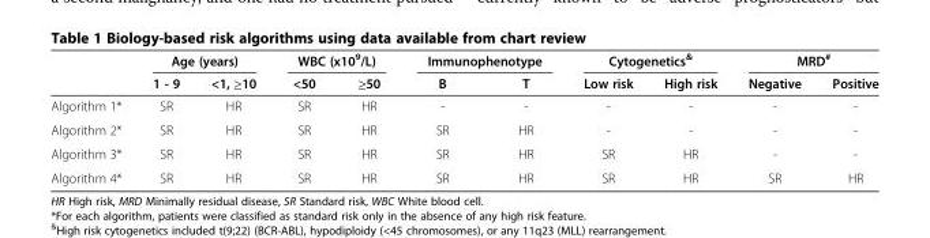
<table><thead><tr><td rowspan="2"></td><td colspan="2">Age (years)</td><td colspan="2">WBC (x10<sup>9</sup>/L)</td><td colspan="2">Immunophenotype</td><td colspan="2">Cytogenetics<sup>&amp;</sup></td><td colspan="2">MRD<sup>#</sup></td></tr><tr><td>1 - 9</td><td>&lt;1, ≥10</td><td>&lt;50</td><td>≥50</td><td>B</td><td>T</td><td>Low risk</td><td>High risk</td><td>Negative</td><td>Positive</td></tr></thead><tbody><tr><td>Algorithm 1*</td><td>SR</td><td>HR</td><td>SR</td><td>HR</td><td>-</td><td>-</td><td>-</td><td>-</td><td>-</td><td>-</td></tr><tr><td>Algorithm 2*</td><td>SR</td><td>HR</td><td>SR</td><td>HR</td><td>SR</td><td>HR</td><td>-</td><td>-</td><td>-</td><td>-</td></tr><tr><td>Algorithm 3*</td><td>SR</td><td>HR</td><td>SR</td><td>HR</td><td>SR</td><td>HR</td><td>SR</td><td>HR</td><td>-</td><td>-</td></tr><tr><td>Algorithm 4*</td><td>SR</td><td>HR</td><td>SR</td><td>HR</td><td>SR</td><td>HR</td><td>SR</td><td>HR</td><td>SR</td><td>HR</td></tr></tbody></table>